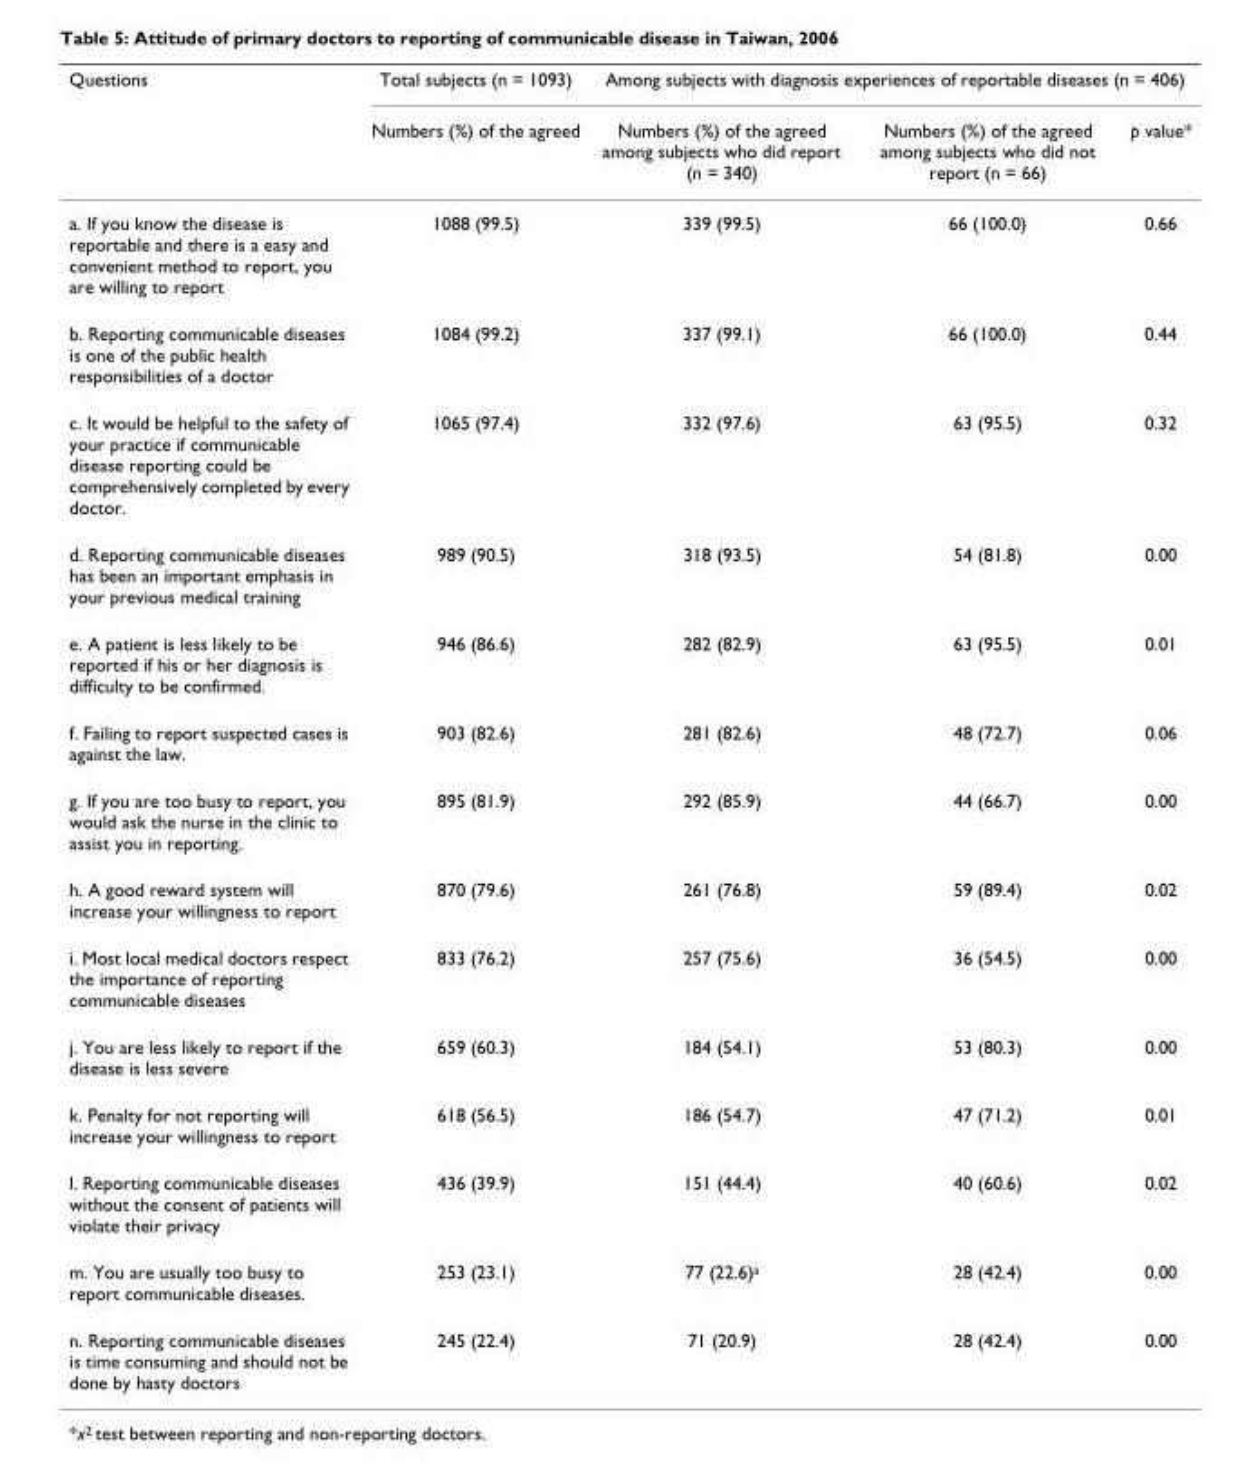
<table><thead><tr><td rowspan="2">Questions</td><td rowspan="2">Total subjects (n = 1093) Numbers (%) of the agreed</td><td colspan="3">Among subjects with diagnosis experiences of reportable diseases (n = 406)</td></tr><tr><td>Numbers (%) of the agreed among subjects who did report (n = 340)</td><td>Numbers (%) of the agreed among subjects who did not report (n = 66)</td><td>p value*</td></tr></thead><tbody><tr><td>a. If you know the disease is reportable and there is a easy and convenient method to report, you are willing to report</td><td>1088 (99.5)</td><td>339 (99.5)</td><td>66 (100.0)</td><td>0.66</td></tr><tr><td>b. Reporting communicable diseases is one of the public health responsibilities of a doctor</td><td>1084 (99.2)</td><td>337 (99.1)</td><td>66 (100.0)</td><td>0.44</td></tr><tr><td>c. It would be helpful to the safety of your practice if communicable disease reporting could be comprehensively completed by every doctor.</td><td>1065 (97.4)</td><td>332 (97.6)</td><td>63 (95.5)</td><td>0.32</td></tr><tr><td>d. Reporting communicable diseases has been an important emphasis in your previous medical training</td><td>989 (90.5)</td><td>318 (93.5)</td><td>54 (81.8)</td><td>0.00</td></tr><tr><td>e. A patient is less likely to be reported if his or her diagnosis is difficulty to be confirmed.</td><td>946 (86.6)</td><td>282 (82.9)</td><td>63 (95.5)</td><td>0.01</td></tr><tr><td>f. Failing to report suspected cases is against the law.</td><td>903 (82.6)</td><td>281 (82.6)</td><td>48 (72.7)</td><td>0.06</td></tr><tr><td>g. If you are too busy to report, you would ask the nurse in the clinic to assist you in reporting.</td><td>895 (81.9)</td><td>292 (85.9)</td><td>44 (66.7)</td><td>0.00</td></tr><tr><td>h. A good reward system will increase your willingness to report</td><td>870 (79.6)</td><td>261 (76.8)</td><td>59 (89.4)</td><td>0.02</td></tr><tr><td>i. Most local medical doctors respect the importance of reporting communicable diseases</td><td>833 (76.2)</td><td>257 (75.6)</td><td>36 (54.5)</td><td>0.00</td></tr><tr><td>j. You are less likely to report if the disease is less severe</td><td>659 (60.3)</td><td>184 (54.1)</td><td>53 (80.3)</td><td>0.00</td></tr><tr><td>k. Penalty for not reporting will increase your willingness to report</td><td>618 (56.5)</td><td>186 (54.7)</td><td>47 (71.2)</td><td>0.01</td></tr><tr><td>l. Reporting communicable diseases without the consent of patients will violate their privacy</td><td>436 (39.9)</td><td>151 (44.4)</td><td>40 (60.6)</td><td>0.02</td></tr><tr><td>m. You are usually too busy to report communicable diseases.</td><td>253 (23.1)</td><td>77 (22.6)<sup>a</sup></td><td>28 (42.4)</td><td>0.00</td></tr><tr><td>n. Reporting communicable diseases is time consuming and should not be done by hasty doctors</td><td>245 (22.4)</td><td>71 (20.9)</td><td>28 (42.4)</td><td>0.00</td></tr></tbody></table>